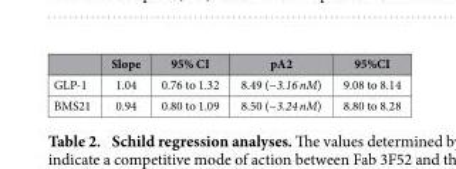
<table><thead><tr><td></td><td>Slope</td><td>95% CI</td><td>pA2</td><td>95%CI</td></tr></thead><tbody><tr><td>GLP-1</td><td>1.04</td><td>0.76 to 1.32</td><td>8.49 (~3.16 nM)</td><td>9.08 to 8.14</td></tr><tr><td>BMS21</td><td>0.94</td><td>0.80 to 1.09</td><td>8.50 (~3.24 nM)</td><td>8.80 to 8.28</td></tr></tbody></table>